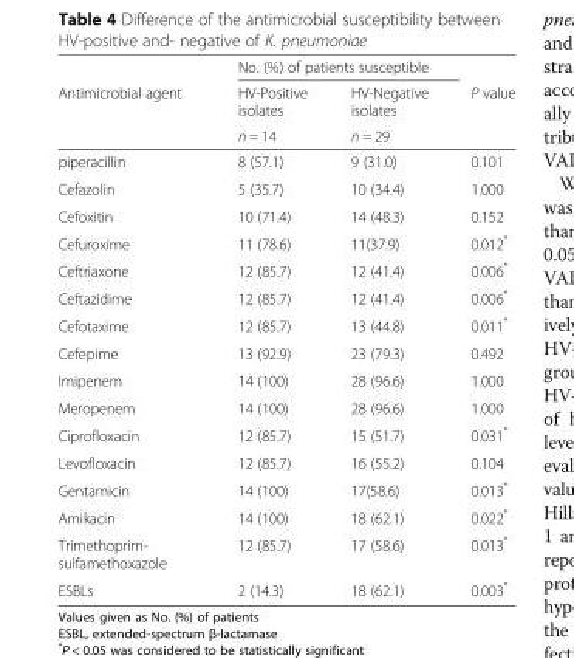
<table><thead><tr><td rowspan="3">Antimicrobial agent</td><td colspan="2">No. (%) of patients susceptible</td><td rowspan="3">P value</td></tr><tr><td rowspan="2">HV-Positive isolates n = 14</td><td rowspan="2">HV-Negative isolates n = 29</td></tr><tr></tr></thead><tbody><tr><td>piperacillin</td><td>8 (57.1)</td><td>9 (31.0)</td><td>0.101</td></tr><tr><td>Cefazolin</td><td>5 (35.7)</td><td>10 (34.4)</td><td>1.000</td></tr><tr><td>Cefoxitin</td><td>10 (71.4)</td><td>14 (48.3)</td><td>0.152</td></tr><tr><td>Cefuroxime</td><td>11 (78.6)</td><td>11(37.9)</td><td>0.012*</td></tr><tr><td>Ceftriaxone</td><td>12 (85.7)</td><td>12 (41.4)</td><td>0.006*</td></tr><tr><td>Ceftazidime</td><td>12 (85.7)</td><td>12 (41.4)</td><td>0.006*</td></tr><tr><td>Cefotaxime</td><td>12 (85.7)</td><td>13 (44.8)</td><td>0.011*</td></tr><tr><td>Cefepime</td><td>13 (92.9)</td><td>23 (79.3)</td><td>0.492</td></tr><tr><td>Imipenem</td><td>14 (100)</td><td>28 (96.6)</td><td>1.000</td></tr><tr><td>Meropenem</td><td>14 (100)</td><td>28 (96.6)</td><td>1.000</td></tr><tr><td>Ciprofloxacin</td><td>12 (85.7)</td><td>15 (51.7)</td><td>0.031*</td></tr><tr><td>Levofloxacin</td><td>12 (85.7)</td><td>16 (55.2)</td><td>0.104</td></tr><tr><td>Gentamicin</td><td>14 (100)</td><td>17(58.6)</td><td>0.013*</td></tr><tr><td>Amikacin</td><td>14 (100)</td><td>18 (62.1)</td><td>0.022*</td></tr><tr><td>Trimethoprim- sulfamethoxazole</td><td>12 (85.7)</td><td>17 (58.6)</td><td>0.013*</td></tr><tr><td>ESBLs</td><td>2 (14.3)</td><td>18 (62.1)</td><td>0.003*</td></tr></tbody></table>